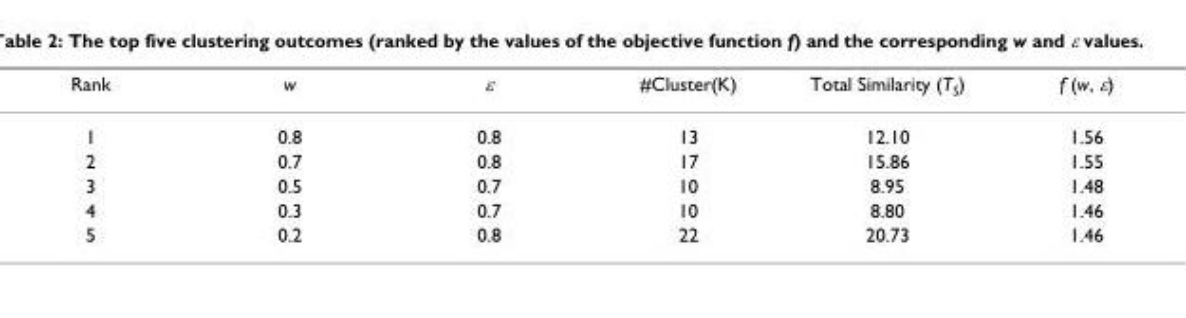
<table><thead><tr><td>Rank</td><td>w</td><td>ε</td><td>#Cluster(K)</td><td>Total Similarity (T<sub>S</sub>)</td><td>f (w, ε)</td></tr></thead><tbody><tr><td>1</td><td>0.8</td><td>0.8</td><td>13</td><td>12.10</td><td>1.56</td></tr><tr><td>2</td><td>0.7</td><td>0.8</td><td>17</td><td>15.86</td><td>1.55</td></tr><tr><td>3</td><td>0.5</td><td>0.7</td><td>10</td><td>8.95</td><td>1.48</td></tr><tr><td>4</td><td>0.3</td><td>0.7</td><td>10</td><td>8.80</td><td>1.46</td></tr><tr><td>5</td><td>0.2</td><td>0.8</td><td>22</td><td>20.73</td><td>1.46</td></tr></tbody></table>